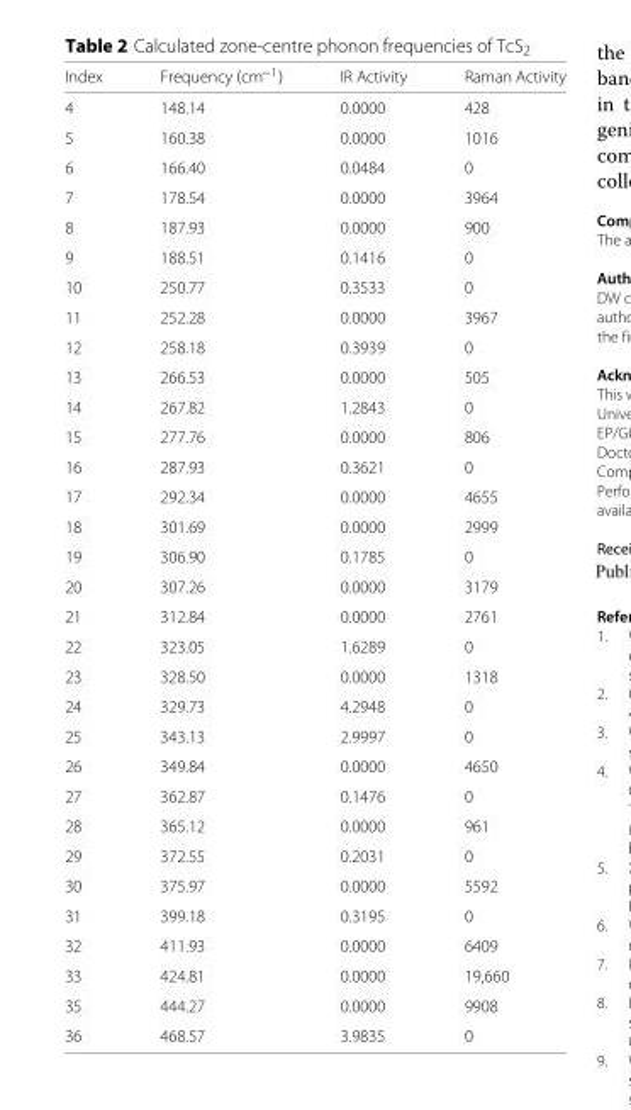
<table><thead><tr><td>Index</td><td>Frequency (cm<sup>−1</sup>)</td><td>IR Activity</td><td>Raman Activity</td></tr></thead><tbody><tr><td>4</td><td>148.14</td><td>0.0000</td><td>428</td></tr><tr><td>5</td><td>160.38</td><td>0.0000</td><td>1016</td></tr><tr><td>6</td><td>166.40</td><td>0.0484</td><td>0</td></tr><tr><td>7</td><td>178.54</td><td>0.0000</td><td>3964</td></tr><tr><td>8</td><td>187.93</td><td>0.0000</td><td>900</td></tr><tr><td>9</td><td>188.51</td><td>0.1416</td><td>0</td></tr><tr><td>10</td><td>250.77</td><td>0.3533</td><td>0</td></tr><tr><td>11</td><td>252.28</td><td>0.0000</td><td>3967</td></tr><tr><td>12</td><td>258.18</td><td>0.3939</td><td>0</td></tr><tr><td>13</td><td>266.53</td><td>0.0000</td><td>505</td></tr><tr><td>14</td><td>267.82</td><td>1.2843</td><td>0</td></tr><tr><td>15</td><td>277.76</td><td>0.0000</td><td>806</td></tr><tr><td>16</td><td>287.93</td><td>0.3621</td><td>0</td></tr><tr><td>17</td><td>292.34</td><td>0.0000</td><td>4655</td></tr><tr><td>18</td><td>301.69</td><td>0.0000</td><td>2999</td></tr><tr><td>19</td><td>306.90</td><td>0.1785</td><td>0</td></tr><tr><td>20</td><td>307.26</td><td>0.0000</td><td>3179</td></tr><tr><td>21</td><td>312.84</td><td>0.0000</td><td>2761</td></tr><tr><td>22</td><td>323.05</td><td>1.6289</td><td>0</td></tr><tr><td>23</td><td>328.50</td><td>0.0000</td><td>1318</td></tr><tr><td>24</td><td>329.73</td><td>4.2948</td><td>0</td></tr><tr><td>25</td><td>343.13</td><td>2.9997</td><td>0</td></tr><tr><td>26</td><td>349.84</td><td>0.0000</td><td>4650</td></tr><tr><td>27</td><td>362.87</td><td>0.1476</td><td>0</td></tr><tr><td>28</td><td>365.12</td><td>0.0000</td><td>961</td></tr><tr><td>29</td><td>372.55</td><td>0.2031</td><td>0</td></tr><tr><td>30</td><td>375.97</td><td>0.0000</td><td>5592</td></tr><tr><td>31</td><td>399.18</td><td>0.3195</td><td>0</td></tr><tr><td>32</td><td>411.93</td><td>0.0000</td><td>6409</td></tr><tr><td>33</td><td>424.81</td><td>0.0000</td><td>19,660</td></tr><tr><td>35</td><td>444.27</td><td>0.0000</td><td>9908</td></tr><tr><td>36</td><td>468.57</td><td>3.9835</td><td>0</td></tr></tbody></table>